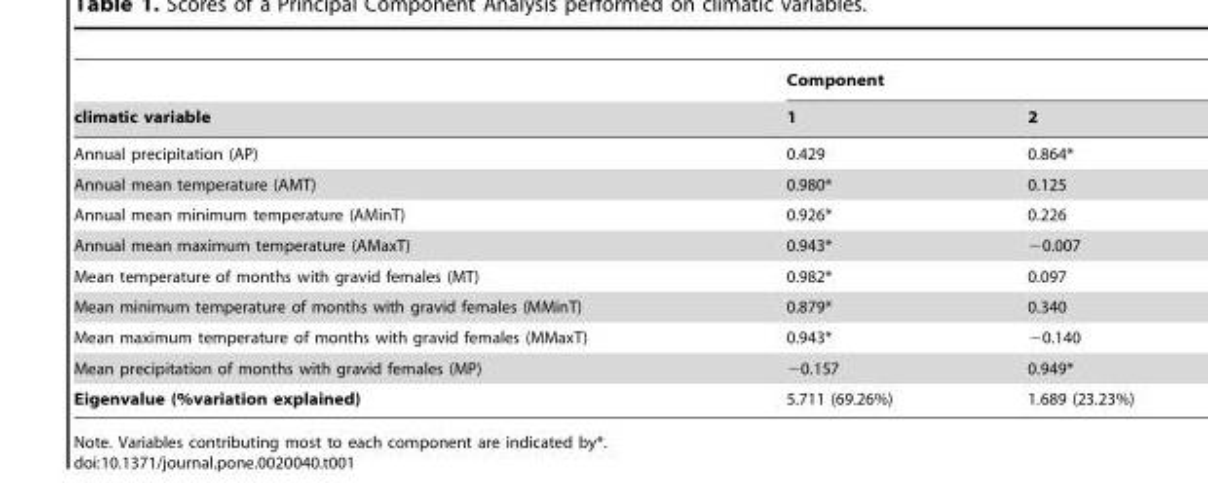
<table><thead><tr><td rowspan="2">climatic variable</td><td colspan="2">Component</td></tr><tr><td>1</td><td>2</td></tr></thead><tbody><tr><td>Annual precipitation (AP)</td><td>0.429</td><td>0.864*</td></tr><tr><td>Annual mean temperature (AMT)</td><td>0.980*</td><td>0.125</td></tr><tr><td>Annual mean minimum temperature (AMinT)</td><td>0.926*</td><td>0.226</td></tr><tr><td>Annual mean maximum temperature (AMaxT)</td><td>0.943*</td><td>−0.007</td></tr><tr><td>Mean temperature of months with gravid females (MT)</td><td>0.982*</td><td>0.097</td></tr><tr><td>Mean minimum temperature of months with gravid females (MMinT)</td><td>0.879*</td><td>0.340</td></tr><tr><td>Mean maximum temperature of months with gravid females (MMaxT)</td><td>0.943*</td><td>−0.140</td></tr><tr><td>Mean precipitation of months with gravid females (MP)</td><td>−0.157</td><td>0.949*</td></tr><tr><td>Eigenvalue (%variation explained)</td><td>5.711 (69.26%)</td><td>1.689 (23.23%)</td></tr></tbody></table>